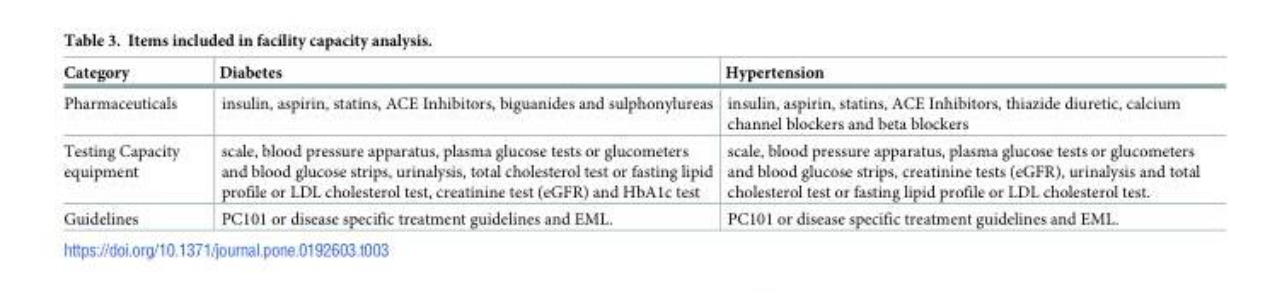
<table><thead><tr><td>Category</td><td>Diabetes</td><td>Hypertension</td></tr></thead><tbody><tr><td>Pharmaceuticals</td><td>insulin, aspirin, statins, ACE Inhibitors, biguanides and sulphonylureas</td><td>insulin, aspirin, statins, ACE Inhibitors, thiazide diuretic, calcium channel blockers and beta blockers</td></tr><tr><td>Testing Capacity equipment</td><td>scale, blood pressure apparatus, plasma glucose tests or glucometers and blood glucose strips, urinalysis, total cholesterol test or fasting lipid profile or LDL cholesterol test, creatinine test (eGFR) and HbA1c test</td><td>scale, blood pressure apparatus, plasma glucose tests or glucometers and blood glucose strips, creatinine tests (eGFR), urinalysis and total cholesterol test or fasting lipid profile or LDL cholesterol test.</td></tr><tr><td>Guidelines</td><td>PC101 or disease specific treatment guidelines and EML.</td><td>PC101 or disease specific treatment guidelines and EML.</td></tr></tbody></table>